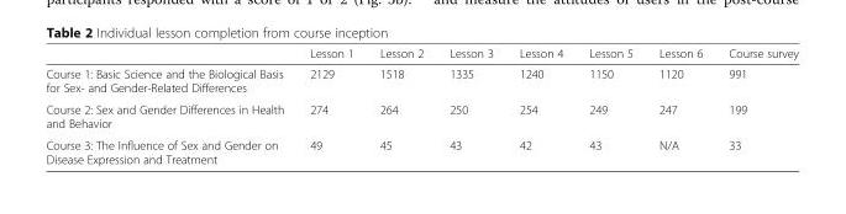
<table><thead><tr><td></td><td>Lesson 1</td><td>Lesson 2</td><td>Lesson 3</td><td>Lesson 4</td><td>Lesson 5</td><td>Lesson 6</td><td>Course survey</td></tr></thead><tbody><tr><td>Course 1: Basic Science and the Biological Basis for Sex- and Gender-Related Differences</td><td>2129</td><td>1518</td><td>1335</td><td>1240</td><td>1150</td><td>1120</td><td>991</td></tr><tr><td>Course 2: Sex and Gender Differences in Health and Behavior</td><td>274</td><td>264</td><td>250</td><td>254</td><td>249</td><td>247</td><td>199</td></tr><tr><td>Course 3: The Influence of Sex and Gender on Disease Expression and Treatment</td><td>49</td><td>45</td><td>43</td><td>42</td><td>43</td><td>N/A</td><td>33</td></tr></tbody></table>